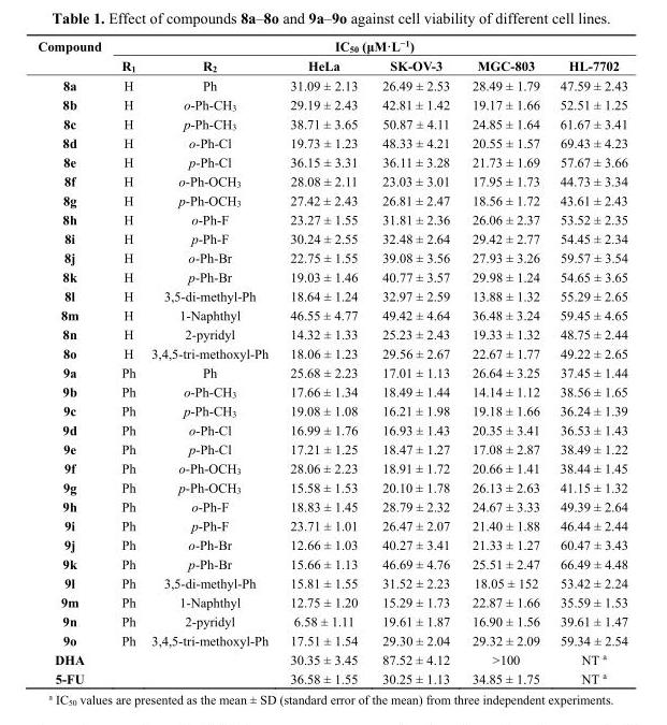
<table><thead><tr><td rowspan="2">Compound</td><td colspan="6">IC<sub>50</sub> (μM·L<sup>−1</sup>)</td></tr><tr><td>R<sub>1</sub></td><td>R<sub>2</sub></td><td>HeLa</td><td>SK-OV-3</td><td>MGC-803</td><td>HL-7702</td></tr></thead><tbody><tr><td>8a</td><td>H</td><td>Ph</td><td>31.09 ± 2.13</td><td>26.49 ± 2.53</td><td>28.49 ± 1.79</td><td>47.59 ± 2.43</td></tr><tr><td>8b</td><td>H</td><td>o-Ph-CH<sub>3</sub></td><td>29.19 ± 2.43</td><td>42.81 ± 1.42</td><td>19.17 ± 1.66</td><td>52.51 ± 1.25</td></tr><tr><td>8c</td><td>H</td><td>p-Ph-CH<sub>3</sub></td><td>38.71 ± 3.65</td><td>50.87 ± 4.11</td><td>24.85 ± 1.64</td><td>61.67 ± 3.41</td></tr><tr><td>8d</td><td>H</td><td>o-Ph-Cl</td><td>19.73 ± 1.23</td><td>48.33 ± 4.21</td><td>20.55 ± 1.57</td><td>69.43 ± 4.23</td></tr><tr><td>8e</td><td>H</td><td>p-Ph-Cl</td><td>36.15 ± 3.31</td><td>36.11 ± 3.28</td><td>21.73 ± 1.69</td><td>57.67 ± 3.66</td></tr><tr><td>8f</td><td>H</td><td>o-Ph-OCH<sub>3</sub></td><td>28.08 ± 2.11</td><td>23.03 ± 3.01</td><td>17.95 ± 1.73</td><td>44.73 ± 3.34</td></tr><tr><td>8g</td><td>H</td><td>p-Ph-OCH<sub>3</sub></td><td>27.42 ± 2.43</td><td>26.81 ± 2.47</td><td>18.56 ± 1.72</td><td>43.61 ± 2.43</td></tr><tr><td>8h</td><td>H</td><td>o-Ph-F</td><td>23.27 ± 1.55</td><td>31.81 ± 2.36</td><td>26.06 ± 2.37</td><td>53.52 ± 2.35</td></tr><tr><td>8i</td><td>H</td><td>p-Ph-F</td><td>30.24 ± 2.55</td><td>32.48 ± 2.64</td><td>29.42 ± 2.77</td><td>54.45 ± 2.34</td></tr><tr><td>8j</td><td>H</td><td>o-Ph-Br</td><td>22.75 ± 1.55</td><td>39.08 ± 3.56</td><td>27.93 ± 3.26</td><td>59.57 ± 3.54</td></tr><tr><td>8k</td><td>H</td><td>p-Ph-Br</td><td>19.03 ± 1.46</td><td>40.77 ± 3.57</td><td>29.98 ± 1.24</td><td>54.65 ± 3.65</td></tr><tr><td>8l</td><td>H</td><td>3,5-di-methyl-Ph</td><td>18.64 ± 1.24</td><td>32.97 ± 2.59</td><td>13.88 ± 1.32</td><td>55.29 ± 2.65</td></tr><tr><td>8m</td><td>H</td><td>1-Naphthyl</td><td>46.55 ± 4.77</td><td>49.42 ± 4.64</td><td>36.48 ± 3.24</td><td>59.45 ± 4.65</td></tr><tr><td>8n</td><td>H</td><td>2-pyridyl</td><td>14.32 ± 1.33</td><td>25.23 ± 2.43</td><td>19.33 ± 1.32</td><td>48.75 ± 2.44</td></tr><tr><td>8o</td><td>H</td><td>3,4,5-tri-methoxyl-Ph</td><td>18.06 ± 1.23</td><td>29.56 ± 2.67</td><td>22.67 ± 1.77</td><td>49.22 ± 2.65</td></tr><tr><td>9a</td><td>Ph</td><td>Ph</td><td>25.68 ± 2.23</td><td>17.01 ± 1.13</td><td>26.64 ± 3.25</td><td>37.45 ± 1.44</td></tr><tr><td>9b</td><td>Ph</td><td>o-Ph-CH<sub>3</sub></td><td>17.66 ± 1.34</td><td>18.49 ± 1.44</td><td>14.14 ± 1.12</td><td>38.56 ± 1.65</td></tr><tr><td>9c</td><td>Ph</td><td>p-Ph-CH<sub>3</sub></td><td>19.08 ± 1.08</td><td>16.21 ± 1.98</td><td>19.18 ± 1.66</td><td>36.24 ± 1.39</td></tr><tr><td>9d</td><td>Ph</td><td>o-Ph-Cl</td><td>16.99 ± 1.76</td><td>16.93 ± 1.43</td><td>20.35 ± 3.41</td><td>36.53 ± 1.43</td></tr><tr><td>9e</td><td>Ph</td><td>p-Ph-Cl</td><td>17.21 ± 1.25</td><td>18.47 ± 1.27</td><td>17.08 ± 2.87</td><td>38.49 ± 1.22</td></tr><tr><td>9f</td><td>Ph</td><td>o-Ph-OCH<sub>3</sub></td><td>28.06 ± 2.23</td><td>18.91 ± 1.72</td><td>20.66 ± 1.41</td><td>38.44 ± 1.45</td></tr><tr><td>9g</td><td>Ph</td><td>p-Ph-OCH<sub>3</sub></td><td>15.58 ± 1.53</td><td>20.10 ± 1.78</td><td>26.13 ± 2.63</td><td>41.15 ± 1.32</td></tr><tr><td>9h</td><td>Ph</td><td>o-Ph-F</td><td>18.83 ± 1.45</td><td>28.79 ± 2.32</td><td>24.67 ± 3.33</td><td>49.39 ± 2.64</td></tr><tr><td>9i</td><td>Ph</td><td>p-Ph-F</td><td>23.71 ± 1.01</td><td>26.47 ± 2.07</td><td>21.40 ± 1.88</td><td>46.44 ± 2.44</td></tr><tr><td>9j</td><td>Ph</td><td>o-Ph-Br</td><td>12.66 ± 1.03</td><td>40.27 ± 3.41</td><td>21.33 ± 1.27</td><td>60.47 ± 3.43</td></tr><tr><td>9k</td><td>Ph</td><td>p-Ph-Br</td><td>15.66 ± 1.13</td><td>46.69 ± 4.76</td><td>25.51 ± 2.47</td><td>66.49 ± 4.48</td></tr><tr><td>9l</td><td>Ph</td><td>3,5-di-methyl-Ph</td><td>15.81 ± 1.55</td><td>31.52 ± 2.23</td><td>18.05 ± 152</td><td>53.42 ± 2.24</td></tr><tr><td>9m</td><td>Ph</td><td>1-Naphthyl</td><td>12.75 ± 1.20</td><td>15.29 ± 1.73</td><td>22.87 ± 1.66</td><td>35.59 ± 1.53</td></tr><tr><td>9n</td><td>Ph</td><td>2-pyridyl</td><td>6.58 ± 1.11</td><td>19.61 ± 1.87</td><td>16.90 ± 1.56</td><td>39.61 ± 1.47</td></tr><tr><td>9o</td><td>Ph</td><td>3,4,5-tri-methoxyl-Ph</td><td>17.51 ± 1.54</td><td>29.30 ± 2.04</td><td>29.32 ± 2.09</td><td>59.34 ± 2.54</td></tr><tr><td>DHA</td><td></td><td></td><td>30.35 ± 3.45</td><td>87.52 ± 4.12</td><td>&gt;100</td><td>NT <sup>a</sup></td></tr><tr><td>5-FU</td><td></td><td></td><td>36.58 ± 1.55</td><td>30.25 ± 1.13</td><td>34.85 ± 1.75</td><td>NT <sup>a</sup></td></tr></tbody></table>